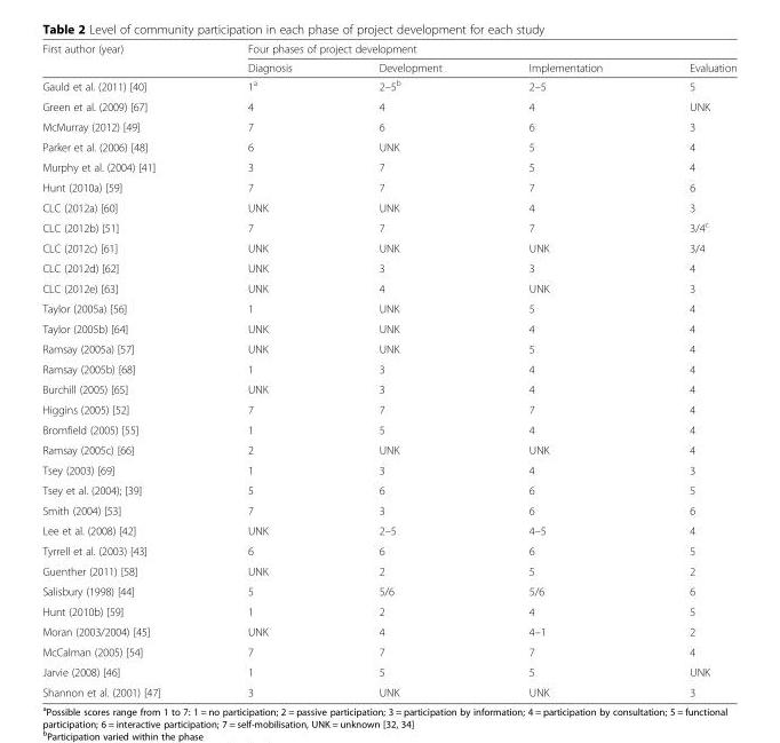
<table><thead><tr><td rowspan="2">First author (year)</td><td colspan="4">Four phases of project development</td></tr><tr><td>Diagnosis</td><td>Development</td><td>Implementation</td><td>Evaluation</td></tr></thead><tbody><tr><td>Gauld et al. (2011) [40]</td><td>1<sup>a</sup></td><td>2–5<sup>b</sup></td><td>2–5</td><td>5</td></tr><tr><td>Green et al. (2009) [67]</td><td>4</td><td>4</td><td>4</td><td>UNK</td></tr><tr><td>McMurray (2012) [49]</td><td>7</td><td>6</td><td>6</td><td>3</td></tr><tr><td>Parker et al. (2006) [48]</td><td>6</td><td>UNK</td><td>5</td><td>4</td></tr><tr><td>Murphy et al. (2004) [41]</td><td>3</td><td>7</td><td>5</td><td>4</td></tr><tr><td>Hunt (2010a) [59]</td><td>7</td><td>7</td><td>7</td><td>6</td></tr><tr><td>CLC (2012a) [60]</td><td>UNK</td><td>UNK</td><td>4</td><td>3</td></tr><tr><td>CLC (2012b) [51]</td><td>7</td><td>7</td><td>7</td><td>3/4<sup>c</sup></td></tr><tr><td>CLC (2012c) [61]</td><td>UNK</td><td>UNK</td><td>UNK</td><td>3/4</td></tr><tr><td>CLC (2012d) [62]</td><td>UNK</td><td>3</td><td>3</td><td>4</td></tr><tr><td>CLC (2012e) [63]</td><td>UNK</td><td>4</td><td>UNK</td><td>3</td></tr><tr><td>Taylor (2005a) [56]</td><td>1</td><td>UNK</td><td>5</td><td>4</td></tr><tr><td>Taylor (2005b) [64]</td><td>UNK</td><td>UNK</td><td>4</td><td>4</td></tr><tr><td>Ramsay (2005a) [57]</td><td>UNK</td><td>UNK</td><td>5</td><td>4</td></tr><tr><td>Ramsay (2005b) [68]</td><td>1</td><td>3</td><td>4</td><td>4</td></tr><tr><td>Burchill (2005) [65]</td><td>UNK</td><td>3</td><td>4</td><td>4</td></tr><tr><td>Higgins (2005) [52]</td><td>7</td><td>7</td><td>7</td><td>4</td></tr><tr><td>Bromfield (2005) [55]</td><td>1</td><td>5</td><td>4</td><td>4</td></tr><tr><td>Ramsay (2005c) [66]</td><td>2</td><td>UNK</td><td>UNK</td><td>4</td></tr><tr><td>Tsey (2003) [69]</td><td>1</td><td>3</td><td>4</td><td>3</td></tr><tr><td>Tsey et al. (2004); [39]</td><td>5</td><td>6</td><td>6</td><td>5</td></tr><tr><td>Smith (2004) [53]</td><td>7</td><td>3</td><td>6</td><td>6</td></tr><tr><td>Lee et al. (2008) [42]</td><td>UNK</td><td>2–5</td><td>4–5</td><td>4</td></tr><tr><td>Tyrrell et al. (2003) [43]</td><td>6</td><td>6</td><td>6</td><td>5</td></tr><tr><td>Guenther (2011) [58]</td><td>UNK</td><td>2</td><td>5</td><td>2</td></tr><tr><td>Salisbury (1998) [44]</td><td>5</td><td>5/6</td><td>5/6</td><td>6</td></tr><tr><td>Hunt (2010b) [59]</td><td>1</td><td>2</td><td>4</td><td>5</td></tr><tr><td>Moran (2003/2004) [45]</td><td>UNK</td><td>4</td><td>4–1</td><td>2</td></tr><tr><td>McCalman (2005) [54]</td><td>7</td><td>7</td><td>7</td><td>4</td></tr><tr><td>Jarvie (2008) [46]</td><td>1</td><td>5</td><td>5</td><td>UNK</td></tr><tr><td>Shannon et al. (2001) [47]</td><td>3</td><td>UNK</td><td>UNK</td><td>3</td></tr></tbody></table>